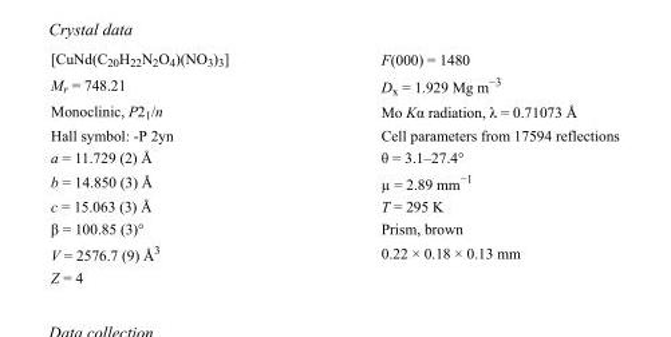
<table><tbody><tr><td>[CuNd(C<sub>20</sub>H<sub>22</sub>N<sub>2</sub>O<sub>4</sub>)(NO<sub>3</sub>)<sub>3</sub>]</td><td>F(000) = 1480</td></tr><tr><td>M<sub>r</sub> = 748.21</td><td>D<sub>x</sub> = 1.929 Mg m<sup>−3</sup></td></tr><tr><td>Monoclinic, P2<sub>1</sub>/n</td><td>Mo Kα radiation, λ = 0.71073 Å</td></tr><tr><td>Hall symbol: -P 2yn</td><td>Cell parameters from 17594 reflections</td></tr><tr><td>a = 11.729 (2) Å</td><td>θ = 3.1–27.4°</td></tr><tr><td>b = 14.850 (3) Å</td><td>µ = 2.89 mm<sup>−1</sup></td></tr><tr><td>c = 15.063 (3) Å</td><td>T = 295 K</td></tr><tr><td>β = 100.85 (3)°</td><td>Prism, brown</td></tr><tr><td>V = 2576.7 (9) Å<sup>3</sup></td><td>0.22 × 0.18 × 0.13 mm</td></tr><tr><td>Z = 4</td><td></td></tr></tbody></table>